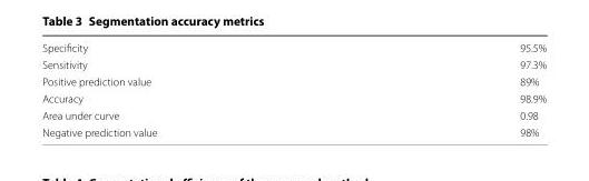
<table><tbody><tr><td>Specificity</td><td>95.5%</td></tr><tr><td>Sensitivity</td><td>97.3%</td></tr><tr><td>Positive prediction value</td><td>89%</td></tr><tr><td>Accuracy</td><td>98.9%</td></tr><tr><td>Area under curve</td><td>0.98</td></tr><tr><td>Negative prediction value</td><td>98%</td></tr></tbody></table>